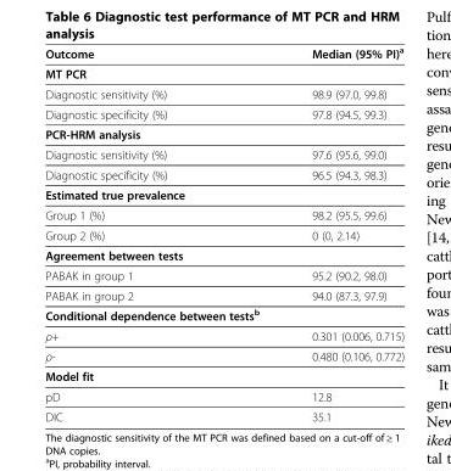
<table><thead><tr><td>Outcome</td><td>Median (95% PI)<sup>a</sup></td></tr></thead><tbody><tr><td colspan="2">MT PCR</td></tr><tr><td>Diagnostic sensitivity (%)</td><td>98.9 (97.0, 99.8)</td></tr><tr><td>Diagnostic specificity (%)</td><td>97.8 (94.5, 99.3)</td></tr><tr><td colspan="2">PCR-HRM analysis</td></tr><tr><td>Diagnostic sensitivity (%)</td><td>97.6 (95.6, 99.0)</td></tr><tr><td>Diagnostic specificity (%)</td><td>96.5 (94.3, 98.3)</td></tr><tr><td colspan="2">Estimated true prevalence</td></tr><tr><td>Group 1 (%)</td><td>98.2 (95.5, 99.6)</td></tr><tr><td>Group 2 (%)</td><td>0 (0, 2.14)</td></tr><tr><td colspan="2">Agreement between tests</td></tr><tr><td>PABAK in group 1</td><td>95.2 (90.2, 98.0)</td></tr><tr><td>PABAK in group 2</td><td>94.0 (87.3, 97.9)</td></tr><tr><td colspan="2">Conditional dependence between tests<sup>b</sup></td></tr><tr><td>ρ+</td><td>0.301 (0.006, 0.715)</td></tr><tr><td>ρ-</td><td>0.480 (0.106, 0.772)</td></tr><tr><td colspan="2">Model fit</td></tr><tr><td>pD</td><td>12.8</td></tr><tr><td>DIC</td><td>35.1</td></tr></tbody></table>